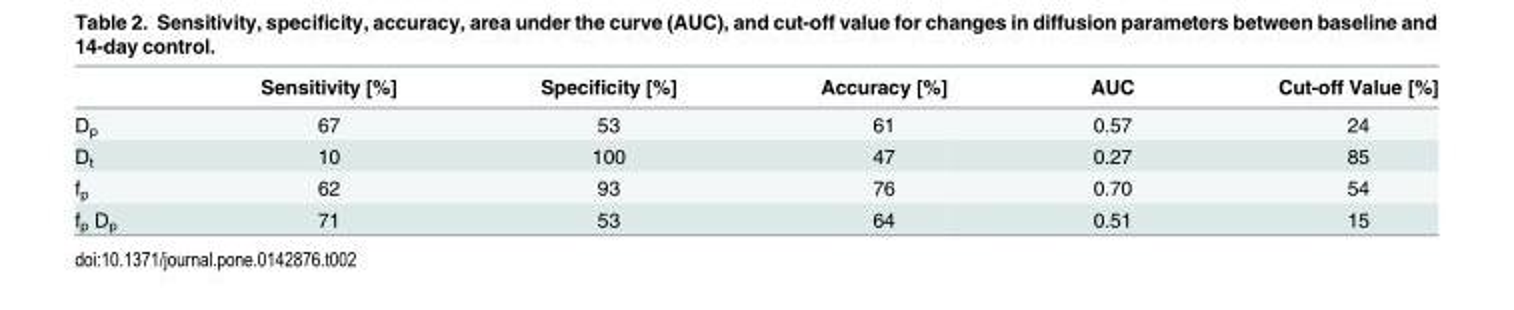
<table><thead><tr><td></td><td>Sensitivity [%]</td><td>Specificity [%]</td><td>Accuracy [%]</td><td>AUC</td><td>Cut-off Value [%]</td></tr></thead><tbody><tr><td>D<sub>p</sub></td><td>67</td><td>53</td><td>61</td><td>0.57</td><td>24</td></tr><tr><td>D<sub>t</sub></td><td>10</td><td>100</td><td>47</td><td>0.27</td><td>85</td></tr><tr><td>f<sub>p</sub></td><td>62</td><td>93</td><td>76</td><td>0.70</td><td>54</td></tr><tr><td>f<sub>p</sub> D<sub>p</sub></td><td>71</td><td>53</td><td>64</td><td>0.51</td><td>15</td></tr></tbody></table>